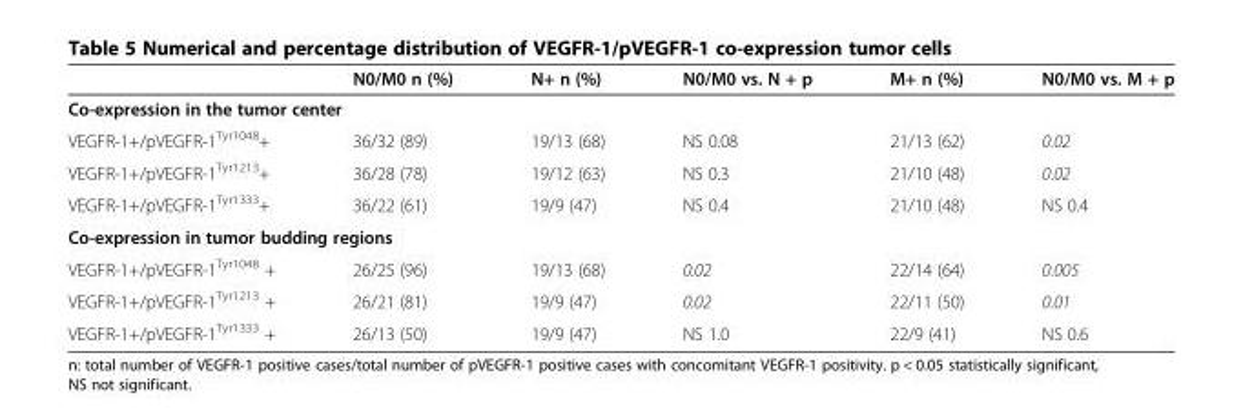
<table><thead><tr><td></td><td>N0/M0 n (%)</td><td>N+ n (%)</td><td>N0/M0 vs. N + p</td><td>M+ n (%)</td><td>N0/M0 vs. M + p</td></tr></thead><tbody><tr><td colspan="6">Co-expression in the tumor center</td></tr><tr><td>VEGFR-1+/pVEGFR-1<sup>Tyr1048</sup>+</td><td>36/32 (89)</td><td>19/13 (68)</td><td>NS 0.08</td><td>21/13 (62)</td><td>0.02</td></tr><tr><td>VEGFR-1+/pVEGFR-1<sup>Tyr1213</sup>+</td><td>36/28 (78)</td><td>19/12 (63)</td><td>NS 0.3</td><td>21/10 (48)</td><td>0.02</td></tr><tr><td>VEGFR-1+/pVEGFR-1<sup>Tyr1333</sup>+</td><td>36/22 (61)</td><td>19/9 (47)</td><td>NS 0.4</td><td>21/10 (48)</td><td>NS 0.4</td></tr><tr><td colspan="6">Co-expression in tumor budding regions</td></tr><tr><td>VEGFR-1+/pVEGFR-1<sup>Tyr1048</sup> +</td><td>26/25 (96)</td><td>19/13 (68)</td><td>0.02</td><td>22/14 (64)</td><td>0.005</td></tr><tr><td>VEGFR-1+/pVEGFR-1<sup>Tyr1213</sup> +</td><td>26/21 (81)</td><td>19/9 (47)</td><td>0.02</td><td>22/11 (50)</td><td>0.01</td></tr><tr><td>VEGFR-1+/pVEGFR-1<sup>Tyr1333</sup> +</td><td>26/13 (50)</td><td>19/9 (47)</td><td>NS 1.0</td><td>22/9 (41)</td><td>NS 0.6</td></tr></tbody></table>